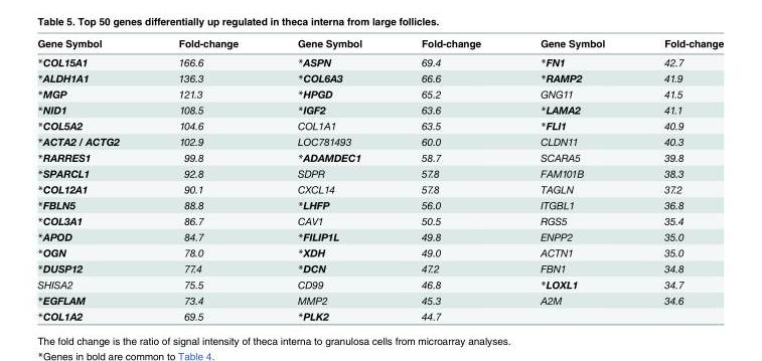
<table><thead><tr><td>Gene Symbol</td><td>Fold-change</td><td>Gene Symbol</td><td>Fold-change</td><td>Gene Symbol</td><td>Fold-change</td></tr></thead><tbody><tr><td>*COL15A1</td><td>166.6</td><td>*ASPN</td><td>69.4</td><td>*FN1</td><td>42.7</td></tr><tr><td>*ALDH1A1</td><td>136.3</td><td>*COL6A3</td><td>66.6</td><td>*RAMP2</td><td>41.9</td></tr><tr><td>*MGP</td><td>121.3</td><td>*HPGD</td><td>65.2</td><td>GNG11</td><td>41.5</td></tr><tr><td>*NID1</td><td>108.5</td><td>*IGF2</td><td>63.6</td><td>*LAMA2</td><td>41.1</td></tr><tr><td>*COL5A2</td><td>104.6</td><td>COL1A1</td><td>63.5</td><td>*FLI1</td><td>40.9</td></tr><tr><td>*ACTA2 / ACTG2</td><td>102.9</td><td>LOC781493</td><td>60.0</td><td>CLDN11</td><td>40.3</td></tr><tr><td>*RARRES1</td><td>99.8</td><td>*ADAMDEC1</td><td>58.7</td><td>SCARA5</td><td>39.8</td></tr><tr><td>*SPARCL1</td><td>92.8</td><td>SDPR</td><td>57.8</td><td>FAM101B</td><td>38.3</td></tr><tr><td>*COL12A1</td><td>90.1</td><td>CXCL14</td><td>57.8</td><td>TAGLN</td><td>37.2</td></tr><tr><td>*FBLN5</td><td>88.8</td><td>*LHFP</td><td>56.0</td><td>ITGBL1</td><td>36.8</td></tr><tr><td>*COL3A1</td><td>86.7</td><td>CAV1</td><td>50.5</td><td>RGS5</td><td>35.4</td></tr><tr><td>*APOD</td><td>84.7</td><td>*FILIP1L</td><td>49.8</td><td>ENPP2</td><td>35.0</td></tr><tr><td>*OGN</td><td>78.0</td><td>*XDH</td><td>49.0</td><td>ACTN1</td><td>35.0</td></tr><tr><td>*DUSP12</td><td>77.4</td><td>*DCN</td><td>47.2</td><td>FBN1</td><td>34.8</td></tr><tr><td>SHISA2</td><td>75.5</td><td>CD99</td><td>46.8</td><td>*LOXL1</td><td>34.7</td></tr><tr><td>*EGFLAM</td><td>73.4</td><td>MMP2</td><td>45.3</td><td>A2M</td><td>34.6</td></tr><tr><td>*COL1A2</td><td>69.5</td><td>*PLK2</td><td>44.7</td><td></td><td></td></tr></tbody></table>